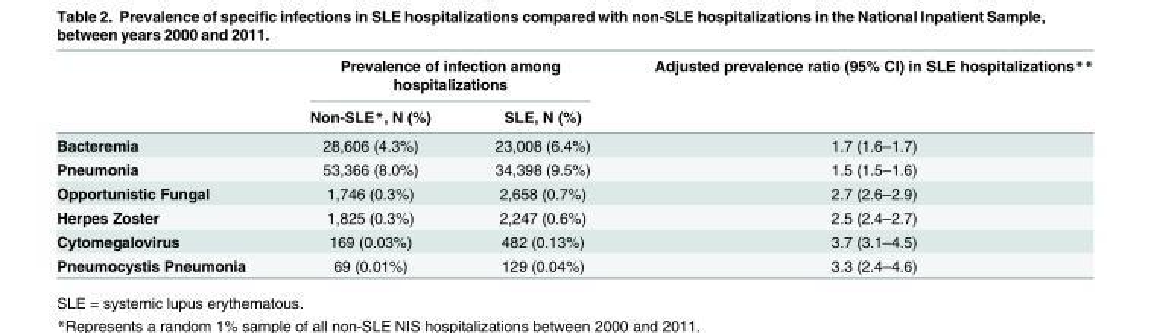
<table><thead><tr><td rowspan="2"></td><td colspan="2">Prevalence of infection among hospitalizations</td><td rowspan="2">Adjusted prevalence ratio (95% CI) in SLE hospitalizations**</td></tr><tr><td>Non-SLE*, N (%)</td><td>SLE, N (%)</td></tr></thead><tbody><tr><td>Bacteremia</td><td>28,606 (4.3%)</td><td>23,008 (6.4%)</td><td>1.7 (1.6–1.7)</td></tr><tr><td>Pneumonia</td><td>53,366 (8.0%)</td><td>34,398 (9.5%)</td><td>1.5 (1.5–1.6)</td></tr><tr><td>Opportunistic Fungal</td><td>1,746 (0.3%)</td><td>2,658 (0.7%)</td><td>2.7 (2.6–2.9)</td></tr><tr><td>Herpes Zoster</td><td>1,825 (0.3%)</td><td>2,247 (0.6%)</td><td>2.5 (2.4–2.7)</td></tr><tr><td>Cytomegalovirus</td><td>169 (0.03%)</td><td>482 (0.13%)</td><td>3.7 (3.1–4.5)</td></tr><tr><td>Pneumocystis Pneumonia</td><td>69 (0.01%)</td><td>129 (0.04%)</td><td>3.3 (2.4–4.6)</td></tr></tbody></table>